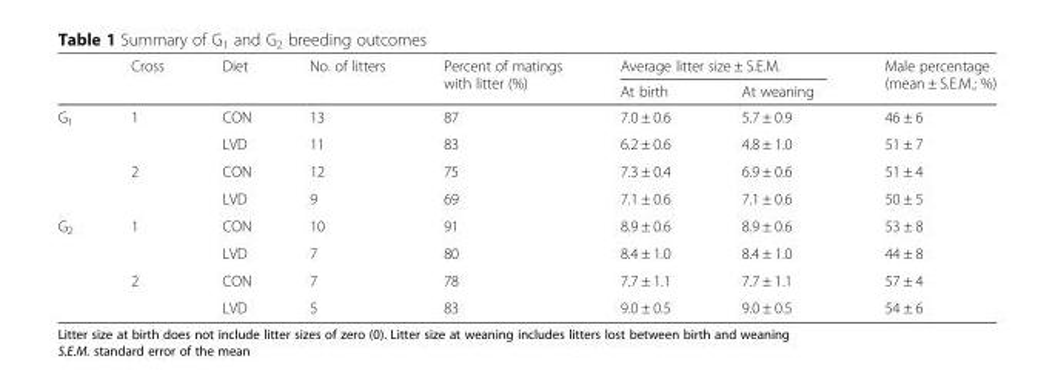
<table><thead><tr><td rowspan="2"></td><td rowspan="2">Cross</td><td rowspan="2">Diet</td><td rowspan="2">No. of litters</td><td rowspan="2">Percent of matings with litter (%)</td><td colspan="2">Average litter size ± S.E.M.</td><td rowspan="2">Male percentage (mean ± S.E.M.; %)</td></tr><tr><td>At birth</td><td>At weaning</td></tr></thead><tbody><tr><td rowspan="4">G<sub>1</sub></td><td rowspan="2">1</td><td>CON</td><td>13</td><td>87</td><td>7.0 ± 0.6</td><td>5.7 ± 0.9</td><td>46 ± 6</td></tr><tr><td>LVD</td><td>11</td><td>83</td><td>6.2 ± 0.6</td><td>4.8 ± 1.0</td><td>51 ± 7</td></tr><tr><td rowspan="2">2</td><td>CON</td><td>12</td><td>75</td><td>7.3 ± 0.4</td><td>6.9 ± 0.6</td><td>51 ± 4</td></tr><tr><td>LVD</td><td>9</td><td>69</td><td>7.1 ± 0.6</td><td>7.1 ± 0.6</td><td>50 ± 5</td></tr><tr><td rowspan="4">G<sub>2</sub></td><td rowspan="2">1</td><td>CON</td><td>10</td><td>91</td><td>8.9 ± 0.6</td><td>8.9 ± 0.6</td><td>53 ± 8</td></tr><tr><td>LVD</td><td>7</td><td>80</td><td>8.4 ± 1.0</td><td>8.4 ± 1.0</td><td>44 ± 8</td></tr><tr><td rowspan="2">2</td><td>CON</td><td>7</td><td>78</td><td>7.7 ± 1.1</td><td>7.7 ± 1.1</td><td>57 ± 4</td></tr><tr><td>LVD</td><td>5</td><td>83</td><td>9.0 ± 0.5</td><td>9.0 ± 0.5</td><td>54 ± 6</td></tr></tbody></table>